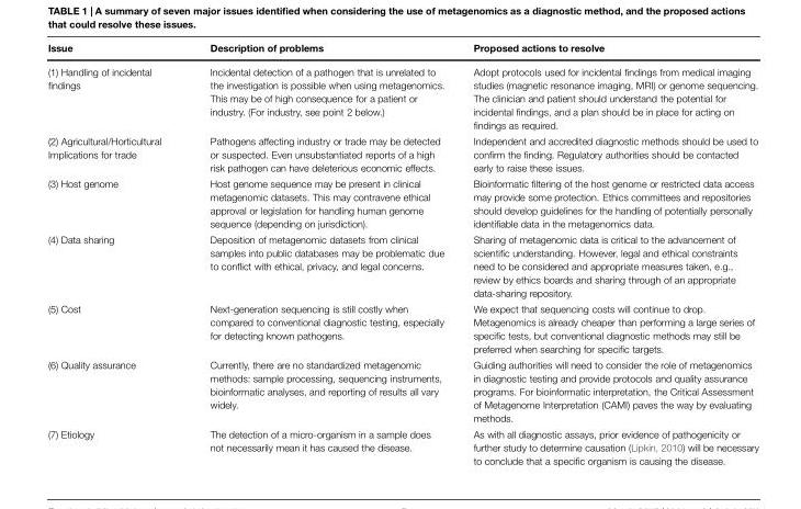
<table><thead><tr><td>Issue</td><td>Description of problems</td><td>Proposed actions to resolve</td></tr></thead><tbody><tr><td>(1) Handling of incidental findings</td><td>Incidental detection of a pathogen that is unrelated to the investigation is possible when using metagenomics. This may be of high consequence for a patient or industry. (For industry, see point 2 below.)</td><td>Adopt protocols used for incidental findings from medical imaging studies (magnetic resonance imaging, MRI) or genome sequencing. The clinician and patient should understand the potential for incidental findings, and a plan should be in place for acting on findings as required.</td></tr><tr><td>(2) Agricultural/Horticultural Implications for trade</td><td>Pathogens affecting industry or trade may be detected or suspected. Even unsubstantiated reports of a high risk pathogen can have deleterious economic effects.</td><td>Independent and accredited diagnostic methods should be used to confirm the finding. Regulatory authorities should be contacted early to raise these issues.</td></tr><tr><td>(3) Host genome</td><td>Host genome sequence may be present in clinical metagenomic datasets. This may contravene ethical approval or legislation for handling human genome sequence (depending on jurisdiction).</td><td>Bioinformatic filtering of the host genome or restricted data access may provide some protection. Ethics committees and repositories should develop guidelines for the handling of potentially personally identifiable data in the metagenomics data.</td></tr><tr><td>(4) Data sharing</td><td>Deposition of metagenomic datasets from clinical samples into public databases may be problematic due to conflict with ethical, privacy, and legal concerns.</td><td>Sharing of metagenomic data is critical to the advancement of scientific understanding. However, legal and ethical constraints need to be considered and appropriate measures taken, e.g., review by ethics boards and sharing through of an appropriate data-sharing repository.</td></tr><tr><td>(5) Cost</td><td>Next-generation sequencing is still costly when compared to conventional diagnostic testing, especially for detecting known pathogens.</td><td>We expect that sequencing costs will continue to drop. Metagenomics is already cheaper than performing a large series of specific tests, but conventional diagnostic methods may still be preferred when searching for specific targets.</td></tr><tr><td>(6) Quality assurance</td><td>Currently, there are no standardized metagenomic methods: sample processing, sequencing instruments, bioinformatic analyses, and reporting of results all vary widely.</td><td>Guiding authorities will need to consider the role of metagenomics in diagnostic testing and provide protocols and quality assurance programs. For bioinformatic interpretation, the Critical Assessment of Metagenome Interpretation (CAMI) paves the way by evaluating methods.</td></tr><tr><td>(7) Etiology</td><td>The detection of a micro-organism in a sample does not necessarily mean it has caused the disease.</td><td>As with all diagnostic assays, prior evidence of pathogenicity or further study to determine causation (Lipkin, 2010) will be necessary to conclude that a specific organism is causing the disease.</td></tr></tbody></table>